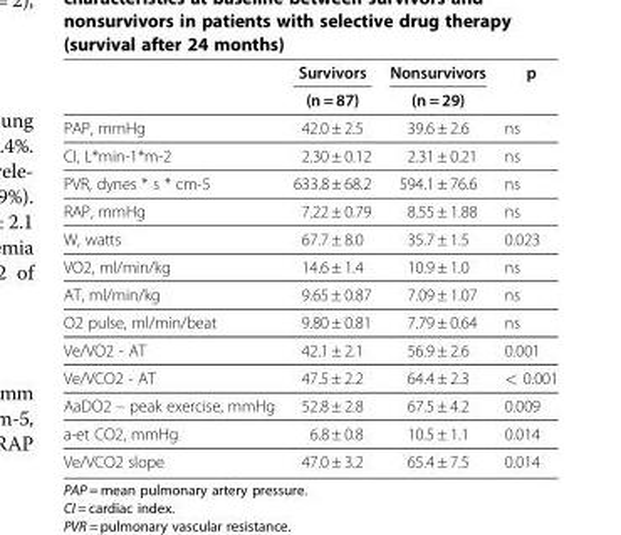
<table><thead><tr><td rowspan="2"></td><td rowspan="2">Survivors (n = 87)</td><td rowspan="2">Nonsurvivors (n = 29)</td><td rowspan="2">p</td></tr><tr></tr></thead><tbody><tr><td>PAP, mmHg</td><td>42.0 ± 2.5</td><td>39.6 ± 2.6</td><td>ns</td></tr><tr><td>CI, L*min-1*m-2</td><td>2.30 ± 0.12</td><td>2.31 ± 0.21</td><td>ns</td></tr><tr><td>PVR, dynes * s * cm-5</td><td>633.8 ± 68.2</td><td>594.1 ± 76.6</td><td>ns</td></tr><tr><td>RAP, mmHg</td><td>7.22 ± 0.79</td><td>8.55 ± 1.88</td><td>ns</td></tr><tr><td>W, watts</td><td>67.7 ± 8.0</td><td>35.7 ± 1.5</td><td>0.023</td></tr><tr><td>VO2, ml/min/kg</td><td>14.6 ± 1.4</td><td>10.9 ± 1.0</td><td>ns</td></tr><tr><td>AT, ml/min/kg</td><td>9.65 ± 0.87</td><td>7.09 ± 1.07</td><td>ns</td></tr><tr><td>O2 pulse, ml/min/beat</td><td>9.80 ± 0.81</td><td>7.79 ± 0.64</td><td>ns</td></tr><tr><td>Ve/VO2 - AT</td><td>42.1 ± 2.1</td><td>56.9 ± 2.6</td><td>0.001</td></tr><tr><td>Ve/VCO2 - AT</td><td>47.5 ± 2.2</td><td>64.4 ± 2.3</td><td>&lt; 0.001</td></tr><tr><td>AaDO2 – peak exercise, mmHg</td><td>52.8 ± 2.8</td><td>67.5 ± 4.2</td><td>0.009</td></tr><tr><td>a-et CO2, mmHg</td><td>6.8 ± 0.8</td><td>10.5 ± 1.1</td><td>0.014</td></tr><tr><td>Ve/VCO2 slope</td><td>47.0 ± 3.2</td><td>65.4 ± 7.5</td><td>0.014</td></tr></tbody></table>